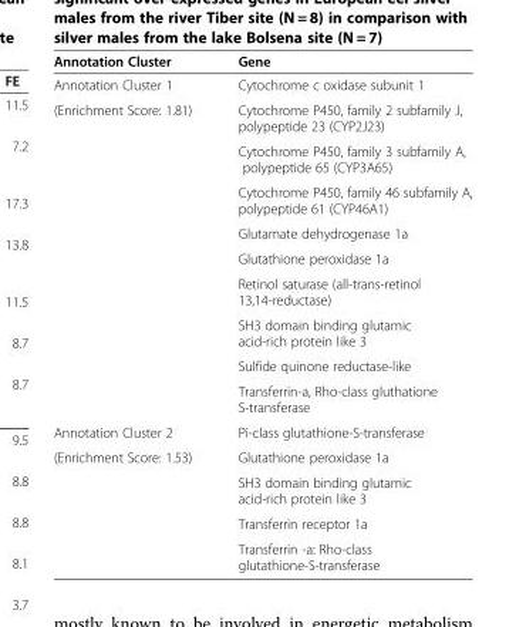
<table><thead><tr><td>Annotation Cluster</td><td>Gene</td></tr></thead><tbody><tr><td>Annotation Cluster 1</td><td>Cytochrome c oxidase subunit 1</td></tr><tr><td rowspan="9">(Enrichment Score: 1.81)</td><td>Cytochrome P450, family 2 subfamily J, polypeptide 23 (CYP2J23)</td></tr><tr><td>Cytochrome P450, family 3 subfamily A, polypeptide 65 (CYP3A65)</td></tr><tr><td>Cytochrome P450, family 46 subfamily A, polypeptide 61 (CYP46A1)</td></tr><tr><td>Glutamate dehydrogenase 1a</td></tr><tr><td>Glutathione peroxidase 1a</td></tr><tr><td>Retinol saturase (all-trans-retinol 13,14-reductase)</td></tr><tr><td>SH3 domain binding glutamic acid-rich protein like 3</td></tr><tr><td>Sulfide quinone reductase-like</td></tr><tr><td>Transferrin-a, Rho-class gluthatione S-transferase</td></tr><tr><td>Annotation Cluster 2</td><td>Pi-class glutathione-S-transferase</td></tr><tr><td rowspan="4">(Enrichment Score: 1.53)</td><td>Glutathione peroxidase 1a</td></tr><tr><td>SH3 domain binding glutamic acid-rich protein like 3</td></tr><tr><td>Transferrin receptor 1a</td></tr><tr><td>Transferrin -a: Rho-class glutathione-S-transferase</td></tr></tbody></table>